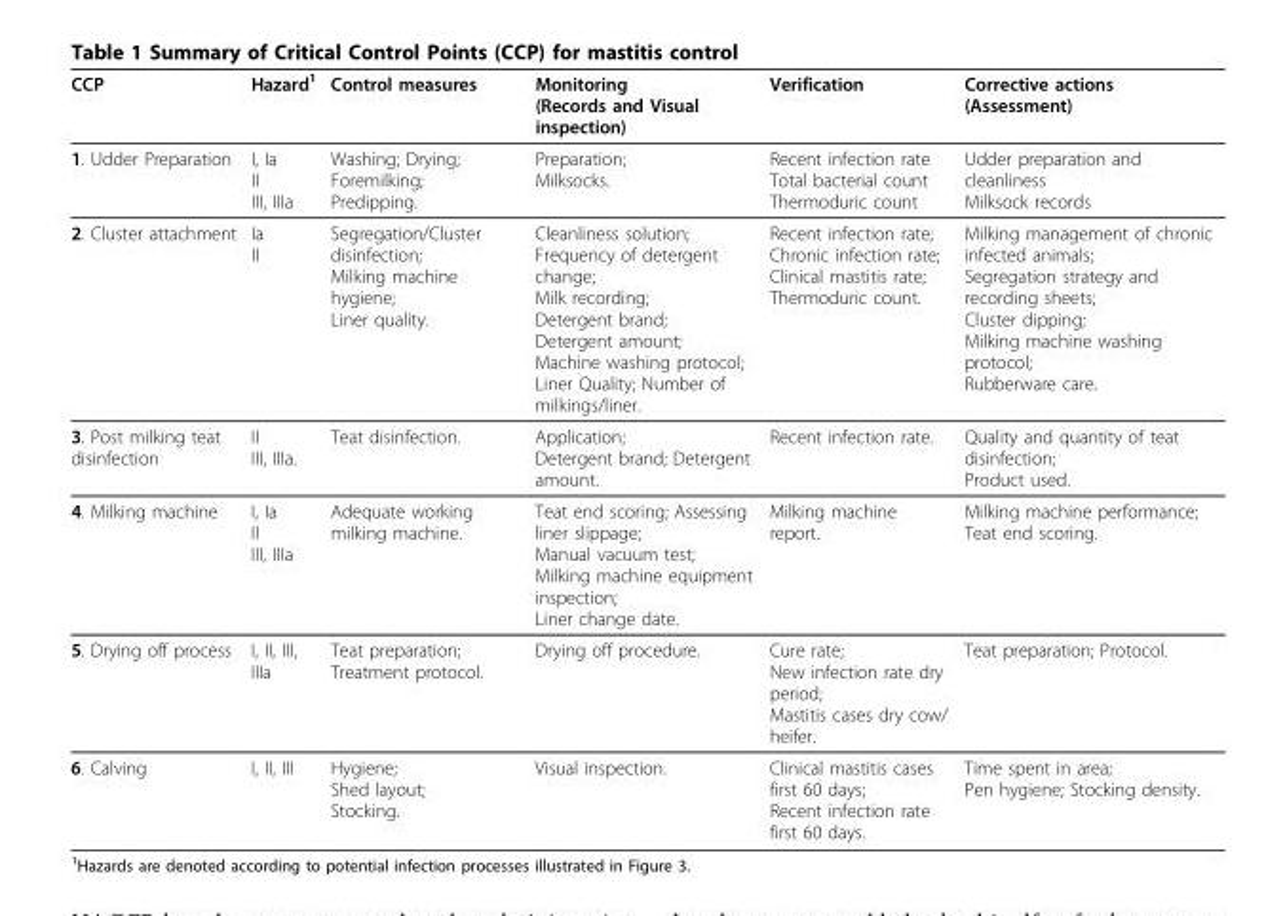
<table><thead><tr><td>CCP</td><td>Hazard<sup>1</sup></td><td>Control measures</td><td>Monitoring (Records and Visual inspection)</td><td>Verification</td><td>Corrective actions (Assessment)</td></tr></thead><tbody><tr><td>1. Udder Preparation</td><td>I, Ia II III, IIIa</td><td>Washing; Drying; Foremilking; Predipping.</td><td>Preparation; Milksocks.</td><td>Recent infection rate Total bacterial count Thermoduric count</td><td>Udder preparation and cleanliness Milksock records</td></tr><tr><td>2. Cluster attachment</td><td>Ia II</td><td>Segregation/Cluster disinfection; Milking machine hygiene; Liner quality.</td><td>Cleanliness solution; Frequency of detergent change; Milk recording; Detergent brand; Detergent amount; Machine washing protocol; Liner Quality; Number of milkings/liner.</td><td>Recent infection rate; Chronic infection rate; Clinical mastitis rate; Thermoduric count.</td><td>Milking management of chronic infected animals; Segregation strategy and recording sheets; Cluster dipping; Milking machine washing protocol; Rubberware care.</td></tr><tr><td>3. Post milking teat disinfection</td><td>II III, IIIa.</td><td>Teat disinfection.</td><td>Application; Detergent brand; Detergent amount.</td><td>Recent infection rate.</td><td>Quality and quantity of teat disinfection; Product used.</td></tr><tr><td>4. Milking machine</td><td>I, Ia II III, IIIa</td><td>Adequate working milking machine.</td><td>Teat end scoring; Assessing liner slippage; Manual vacuum test; Milking machine equipment inspection; Liner change date.</td><td>Milking machine report.</td><td>Milking machine performance; Teat end scoring.</td></tr><tr><td>5. Drying off process</td><td>I, II, III, IIIa</td><td>Teat preparation; Treatment protocol.</td><td>Drying off procedure.</td><td>Cure rate; New infection rate dry period; Mastitis cases dry cow/ heifer.</td><td>Teat preparation; Protocol.</td></tr><tr><td>6. Calving</td><td>I, II, III</td><td>Hygiene; Shed layout; Stocking.</td><td>Visual inspection.</td><td>Clinical mastitis cases first 60 days; Recent infection rate first 60 days.</td><td>Time spent in area; Pen hygiene; Stocking density.</td></tr></tbody></table>